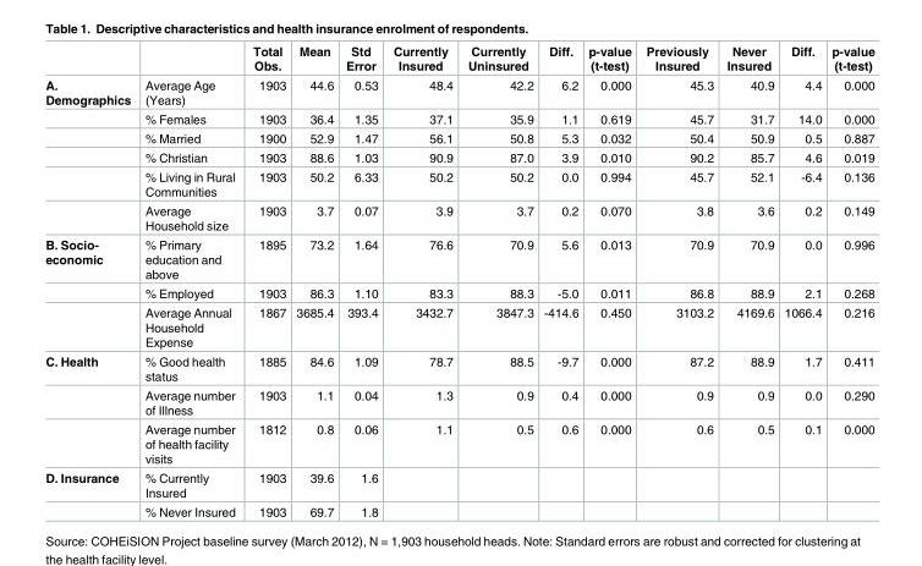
<table><thead><tr><td></td><td></td><td>Total Obs.</td><td>Mean</td><td>Std Error</td><td>Currently Insured</td><td>Currently Uninsured</td><td>Diff.</td><td>p-value (t-test)</td><td>Previously Insured</td><td>Never Insured</td><td>Diff.</td><td>p-value (t-test)</td></tr></thead><tbody><tr><td rowspan="6">A. Demographics</td><td>Average Age (Years)</td><td>1903</td><td>44.6</td><td>0.53</td><td>48.4</td><td>42.2</td><td>6.2</td><td>0.000</td><td>45.3</td><td>40.9</td><td>4.4</td><td>0.000</td></tr><tr><td>% Females</td><td>1903</td><td>36.4</td><td>1.35</td><td>37.1</td><td>35.9</td><td>1.1</td><td>0.619</td><td>45.7</td><td>31.7</td><td>14.0</td><td>0.000</td></tr><tr><td>% Married</td><td>1900</td><td>52.9</td><td>1.47</td><td>56.1</td><td>50.8</td><td>5.3</td><td>0.032</td><td>50.4</td><td>50.9</td><td>0.5</td><td>0.887</td></tr><tr><td>% Christian</td><td>1903</td><td>88.6</td><td>1.03</td><td>90.9</td><td>87.0</td><td>3.9</td><td>0.010</td><td>90.2</td><td>85.7</td><td>4.6</td><td>0.019</td></tr><tr><td>% Living in Rural Communities</td><td>1903</td><td>50.2</td><td>6.33</td><td>50.2</td><td>50.2</td><td>0.0</td><td>0.994</td><td>45.7</td><td>52.1</td><td>-6.4</td><td>0.136</td></tr><tr><td>Average Household size</td><td>1903</td><td>3.7</td><td>0.07</td><td>3.9</td><td>3.7</td><td>0.2</td><td>0.070</td><td>3.8</td><td>3.6</td><td>0.2</td><td>0.149</td></tr><tr><td rowspan="3">B. Socio- economic</td><td>% Primary education and above</td><td>1895</td><td>73.2</td><td>1.64</td><td>76.6</td><td>70.9</td><td>5.6</td><td>0.013</td><td>70.9</td><td>70.9</td><td>0.0</td><td>0.996</td></tr><tr><td>% Employed</td><td>1903</td><td>86.3</td><td>1.10</td><td>83.3</td><td>88.3</td><td>-5.0</td><td>0.011</td><td>86.8</td><td>88.9</td><td>2.1</td><td>0.268</td></tr><tr><td>Average Annual Household Expense</td><td>1867</td><td>3685.4</td><td>393.4</td><td>3432.7</td><td>3847.3</td><td>-414.6</td><td>0.450</td><td>3103.2</td><td>4169.6</td><td>1066.4</td><td>0.216</td></tr><tr><td rowspan="3">C. Health</td><td>% Good health status</td><td>1885</td><td>84.6</td><td>1.09</td><td>78.7</td><td>88.5</td><td>-9.7</td><td>0.000</td><td>87.2</td><td>88.9</td><td>1.7</td><td>0.411</td></tr><tr><td>Average number of Illness</td><td>1903</td><td>1.1</td><td>0.04</td><td>1.3</td><td>0.9</td><td>0.4</td><td>0.000</td><td>0.9</td><td>0.9</td><td>0.0</td><td>0.290</td></tr><tr><td>Average number of health facility visits</td><td>1812</td><td>0.8</td><td>0.06</td><td>1.1</td><td>0.5</td><td>0.6</td><td>0.000</td><td>0.6</td><td>0.5</td><td>0.1</td><td>0.000</td></tr><tr><td rowspan="2">D. Insurance</td><td>% Currently Insured</td><td>1903</td><td>39.6</td><td>1.6</td><td></td><td></td><td></td><td></td><td></td><td></td><td></td><td></td></tr><tr><td>% Never Insured</td><td>1903</td><td>69.7</td><td>1.8</td><td></td><td></td><td></td><td></td><td></td><td></td><td></td><td></td></tr></tbody></table>